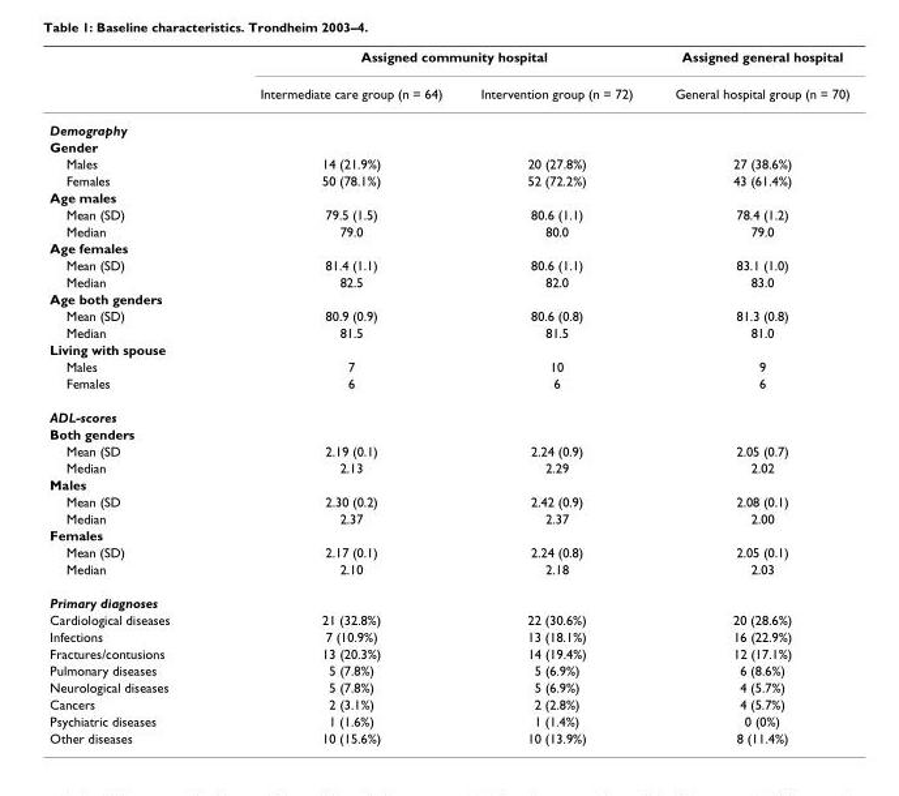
<table><thead><tr><td rowspan="2"></td><td colspan="2">Assigned community hospital</td><td rowspan="2">Assigned general hospital General hospital group (n = 70)</td></tr><tr><td>Intermediate care group (n = 64)</td><td>Intervention group (n = 72)</td></tr></thead><tbody><tr><td colspan="4">Demography</td></tr><tr><td colspan="4">Gender</td></tr><tr><td>Males</td><td>14 (21.9%)</td><td>20 (27.8%)</td><td>27 (38.6%)</td></tr><tr><td>Females</td><td>50 (78.1%)</td><td>52 (72.2%)</td><td>43 (61.4%)</td></tr><tr><td colspan="4">Age males</td></tr><tr><td>Mean (SD)</td><td>79.5 (1.5)</td><td>80.6 (1.1)</td><td>78.4 (1.2)</td></tr><tr><td>Median</td><td>79.0</td><td>80.0</td><td>79.0</td></tr><tr><td colspan="4">Age females</td></tr><tr><td>Mean (SD)</td><td>81.4 (1.1)</td><td>80.6 (1.1)</td><td>83.1 (1.0)</td></tr><tr><td>Median</td><td>82.5</td><td>82.0</td><td>83.0</td></tr><tr><td colspan="4">Age both genders</td></tr><tr><td>Mean (SD)</td><td>80.9 (0.9)</td><td>80.6 (0.8)</td><td>81.3 (0.8)</td></tr><tr><td>Median</td><td>81.5</td><td>81.5</td><td>81.0</td></tr><tr><td colspan="4">Living with spouse</td></tr><tr><td>Males</td><td>7</td><td>10</td><td>9</td></tr><tr><td>Females</td><td>6</td><td>6</td><td>6</td></tr><tr><td colspan="4">ADL-scores</td></tr><tr><td colspan="4">Both genders</td></tr><tr><td>Mean (SD</td><td>2.19 (0.1)</td><td>2.24 (0.9)</td><td>2.05 (0.7)</td></tr><tr><td>Median</td><td>2.13</td><td>2.29</td><td>2.02</td></tr><tr><td colspan="4">Males</td></tr><tr><td>Mean (SD</td><td>2.30 (0.2)</td><td>2.42 (0.9)</td><td>2.08 (0.1)</td></tr><tr><td>Median</td><td>2.37</td><td>2.37</td><td>2.00</td></tr><tr><td colspan="4">Females</td></tr><tr><td>Mean (SD)</td><td>2.17 (0.1)</td><td>2.24 (0.8)</td><td>2.05 (0.1)</td></tr><tr><td>Median</td><td>2.10</td><td>2.18</td><td>2.03</td></tr><tr><td colspan="4">Primary diagnoses</td></tr><tr><td>Cardiological diseases</td><td>21 (32.8%)</td><td>22 (30.6%)</td><td>20 (28.6%)</td></tr><tr><td>Infections</td><td>7 (10.9%)</td><td>13 (18.1%)</td><td>16 (22.9%)</td></tr><tr><td>Fractures/contusions</td><td>13 (20.3%)</td><td>14 (19.4%)</td><td>12 (17.1%)</td></tr><tr><td>Pulmonary diseases</td><td>5 (7.8%)</td><td>5 (6.9%)</td><td>6 (8.6%)</td></tr><tr><td>Neurological diseases</td><td>5 (7.8%)</td><td>5 (6.9%)</td><td>4 (5.7%)</td></tr><tr><td>Cancers</td><td>2 (3.1%)</td><td>2 (2.8%)</td><td>4 (5.7%)</td></tr><tr><td>Psychiatric diseases</td><td>1 (1.6%)</td><td>1 (1.4%)</td><td>0 (0%)</td></tr><tr><td>Other diseases</td><td>10 (15.6%)</td><td>10 (13.9%)</td><td>8 (11.4%)</td></tr></tbody></table>